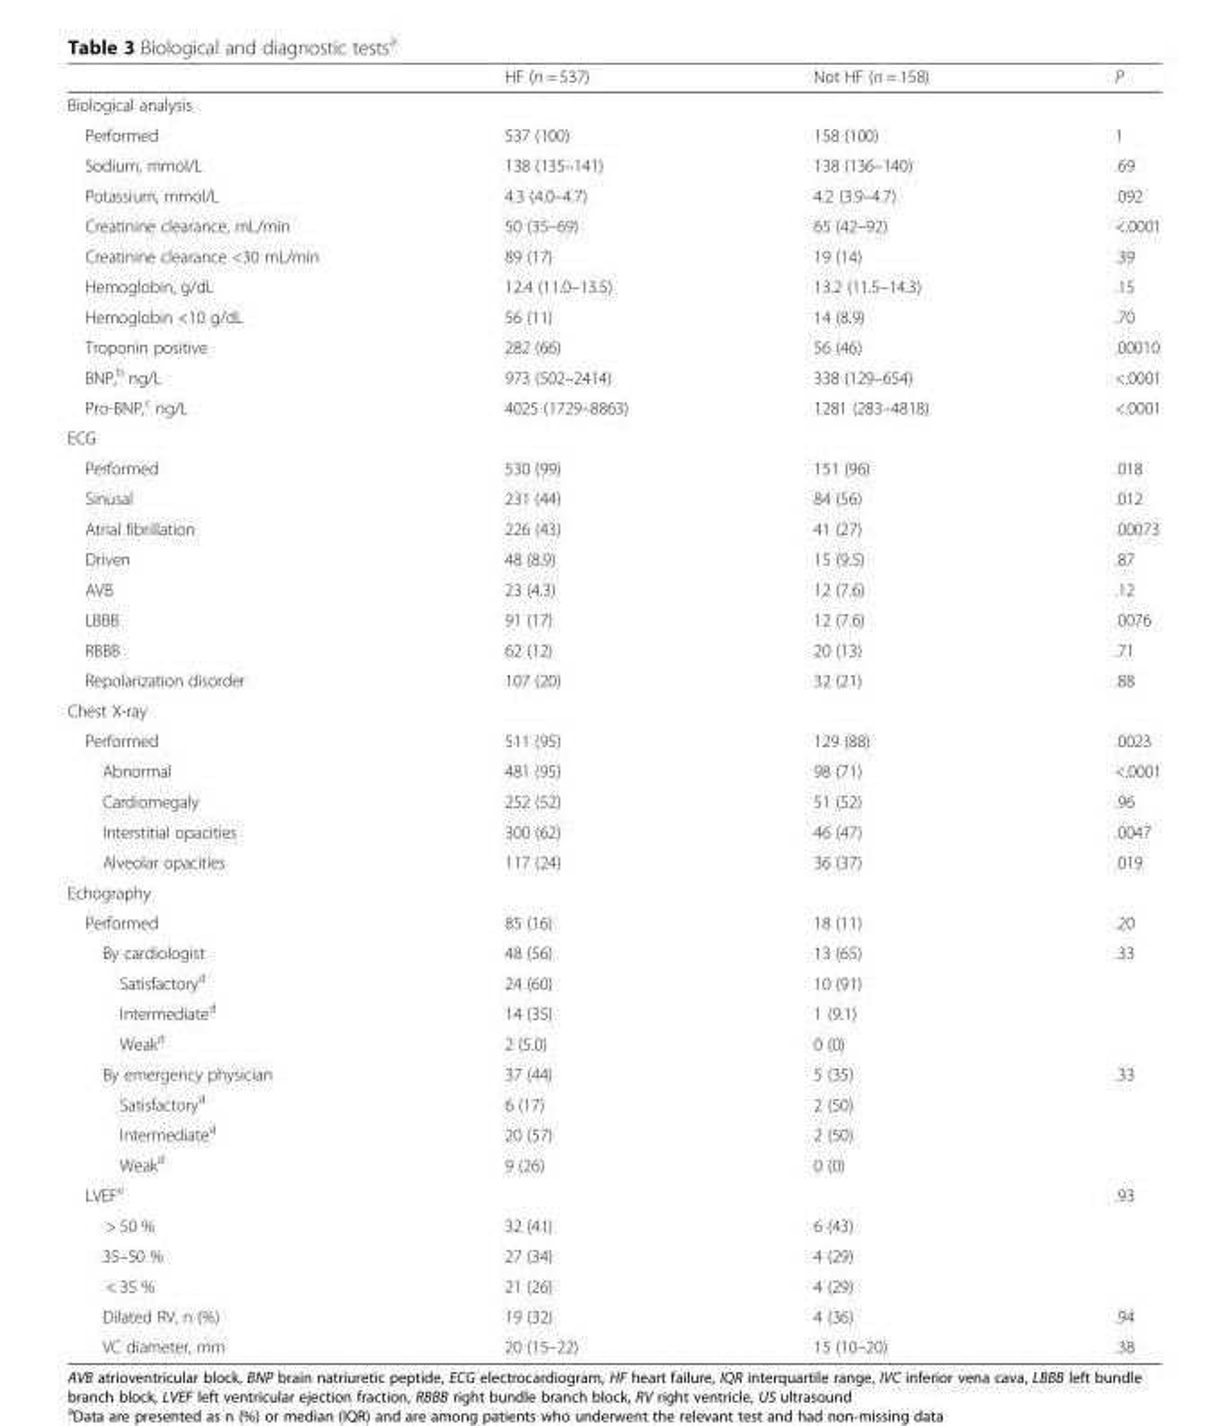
<table><thead><tr><td></td><td>HF (n = 537)</td><td>Not HF (n = 158)</td><td>P</td></tr></thead><tbody><tr><td colspan="4">Biological analysis</td></tr><tr><td>Performed</td><td>537 (100)</td><td>158 (100)</td><td>1</td></tr><tr><td>Sodium, mmol/L</td><td>138 (135–141)</td><td>138 (136–140)</td><td>.69</td></tr><tr><td>Potassium, mmol/L</td><td>4.3 (4.0–4.7)</td><td>4.2 (3.9–4.7)</td><td>.092</td></tr><tr><td>Creatinine clearance, mL/min</td><td>50 (35–69)</td><td>65 (42–92)</td><td>&lt;.0001</td></tr><tr><td>Creatinine clearance &lt;30 mL/min</td><td>89 (17)</td><td>19 (14)</td><td>.39</td></tr><tr><td>Hemoglobin, g/dL</td><td>12.4 (11.0–13.5)</td><td>13.2 (11.5–14.3)</td><td>.15</td></tr><tr><td>Hemoglobin &lt;10 g/dL</td><td>56 (11)</td><td>14 (8.9)</td><td>.70</td></tr><tr><td>Troponin positive</td><td>282 (66)</td><td>56 (46)</td><td>.00010</td></tr><tr><td>BNP,<sup>b</sup> ng/L</td><td>973 (502–2414)</td><td>338 (129–654)</td><td>&lt;.0001</td></tr><tr><td>Pro-BNP,<sup>c</sup> ng/L</td><td>4025 (1729–8863)</td><td>1281 (283–4818)</td><td>&lt;.0001</td></tr><tr><td colspan="4">ECG</td></tr><tr><td>Performed</td><td>530 (99)</td><td>151 (96)</td><td>.018</td></tr><tr><td>Sinusal</td><td>231 (44)</td><td>84 (56)</td><td>.012</td></tr><tr><td>Atrial fibrillation</td><td>226 (43)</td><td>41 (27)</td><td>.00073</td></tr><tr><td>Driven</td><td>48 (8.9)</td><td>15 (9.5)</td><td>.87</td></tr><tr><td>AVB</td><td>23 (4.3)</td><td>12 (7.6)</td><td>.12</td></tr><tr><td>LBBB</td><td>91 (17)</td><td>12 (7.6)</td><td>.0076</td></tr><tr><td>RBBB</td><td>62 (12)</td><td>20 (13)</td><td>.71</td></tr><tr><td>Repolarization disorder</td><td>107 (20)</td><td>32 (21)</td><td>.88</td></tr><tr><td colspan="4">Chest X-ray</td></tr><tr><td>Performed</td><td>511 (95)</td><td>129 (88)</td><td>.0023</td></tr><tr><td>Abnormal</td><td>481 (95)</td><td>98 (71)</td><td>&lt;.0001</td></tr><tr><td>Cardiomegaly</td><td>252 (52)</td><td>51 (52)</td><td>.96</td></tr><tr><td>Interstitial opacities</td><td>300 (62)</td><td>46 (47)</td><td>.0047</td></tr><tr><td>Alveolar opacities</td><td>117 (24)</td><td>36 (37)</td><td>.019</td></tr><tr><td colspan="4">Echography</td></tr><tr><td>Performed</td><td>85 (16)</td><td>18 (11)</td><td>.20</td></tr><tr><td>By cardiologist</td><td>48 (56)</td><td>13 (65)</td><td>.33</td></tr><tr><td>Satisfactory<sup>d</sup></td><td>24 (60)</td><td>10 (91)</td><td></td></tr><tr><td>Intermediate<sup>d</sup></td><td>14 (35)</td><td>1 (9.1)</td><td></td></tr><tr><td>Weak<sup>d</sup></td><td>2 (5.0)</td><td>0 (0)</td><td></td></tr><tr><td>By emergency physician</td><td>37 (44)</td><td>5 (35)</td><td>.33</td></tr><tr><td>Satisfactory<sup>d</sup></td><td>6 (17)</td><td>2 (50)</td><td></td></tr><tr><td>Intermediate<sup>d</sup></td><td>20 (57)</td><td>2 (50)</td><td></td></tr><tr><td>Weak<sup>d</sup></td><td>9 (26)</td><td>0 (0)</td><td></td></tr><tr><td>LVEF<sup>e</sup></td><td></td><td></td><td>.93</td></tr><tr><td>&gt; 50 %</td><td>32 (41)</td><td>6 (43)</td><td></td></tr><tr><td>35–50 %</td><td>27 (34)</td><td>4 (29)</td><td></td></tr><tr><td>&lt; 35 %</td><td>21 (26)</td><td>4 (29)</td><td></td></tr><tr><td>Dilated RV, n (%)</td><td>19 (32)</td><td>4 (36)</td><td>.94</td></tr><tr><td>VC diameter, mm</td><td>20 (15–22)</td><td>15 (10–20)</td><td>.38</td></tr></tbody></table>